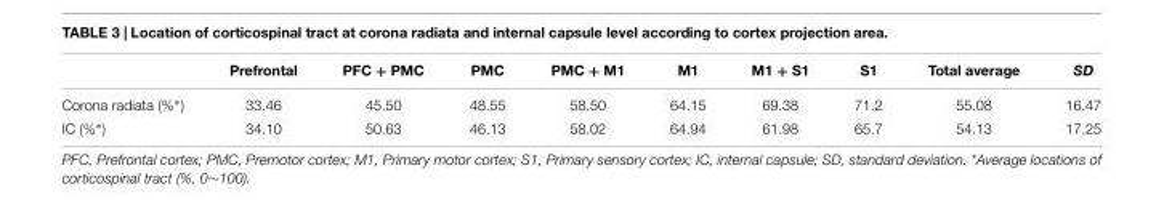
<table><thead><tr><td></td><td>Prefrontal</td><td>PFC + PMC</td><td>PMC</td><td>PMC + M1</td><td>M1</td><td>M1 + S1</td><td>S1</td><td>Total average</td><td>SD</td></tr></thead><tbody><tr><td>Corona radiata (%∗)</td><td>33.46</td><td>45.50</td><td>48.55</td><td>58.50</td><td>64.15</td><td>69.38</td><td>71.2</td><td>55.08</td><td>16.47</td></tr><tr><td>IC (%∗)</td><td>34.10</td><td>50.63</td><td>46.13</td><td>58.02</td><td>64.94</td><td>61.98</td><td>65.7</td><td>54.13</td><td>17.25</td></tr></tbody></table>